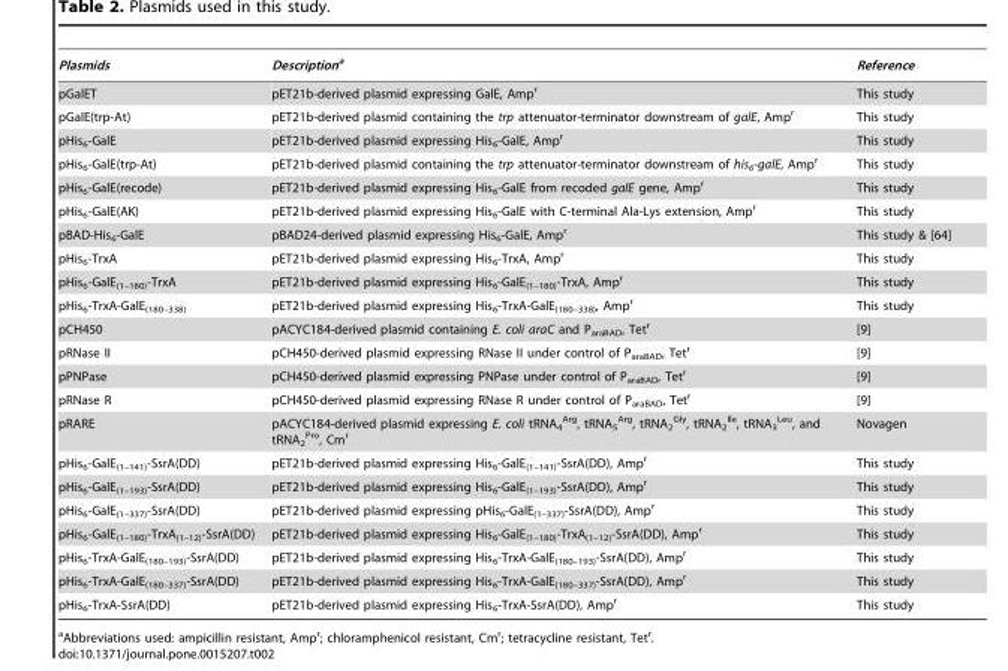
<table><thead><tr><td>Plasmids</td><td>Description<sup>a</sup></td><td>Reference</td></tr></thead><tbody><tr><td>pGalET</td><td>pET21b-derived plasmid expressing GalE, Amp<sup>r</sup></td><td>This study</td></tr><tr><td>pGalE(trp-At)</td><td>pET21b-derived plasmid containing the trp attenuator-terminator downstream of galE, Amp<sup>r</sup></td><td>This study</td></tr><tr><td>pHis<sub>6</sub>-GalE</td><td>pET21b-derived plasmid expressing His<sub>6</sub>-GalE, Amp<sup>r</sup></td><td>This study</td></tr><tr><td>pHis<sub>6</sub>-GalE(trp-At)</td><td>pET21b-derived plasmid containing the trp attenuator-terminator downstream of his<sub>6</sub>-galE, Amp<sup>r</sup></td><td>This study</td></tr><tr><td>pHis<sub>6</sub>-GalE(recode)</td><td>pET21b-derived plasmid expressing His<sub>6</sub>-GalE from recoded galE gene, Amp<sup>r</sup></td><td>This study</td></tr><tr><td>pHis<sub>6</sub>-GalE(AK)</td><td>pET21b-derived plasmid expressing His<sub>6</sub>-GalE with C-terminal Ala-Lys extension, Amp<sup>r</sup></td><td>This study</td></tr><tr><td>pBAD-His<sub>6</sub>-GalE</td><td>pBAD24-derived plasmid expressing His<sub>6</sub>-GalE, Amp<sup>r</sup></td><td>This study &amp; [64]</td></tr><tr><td>pHis<sub>6</sub>-TrxA</td><td>pET21b-derived plasmid expressing His<sub>6</sub>-TrxA, Amp<sup>r</sup></td><td>This study</td></tr><tr><td>pHis<sub>6</sub>-GalE<sub>(1–180)</sub>-TrxA</td><td>pET21b-derived plasmid expressing His<sub>6</sub>-GalE<sub>(1–180)</sub>-TrxA, Amp<sup>r</sup></td><td>This study</td></tr><tr><td>pHis<sub>6</sub>-TrxA-GalE<sub>(180–338)</sub></td><td>pET21b-derived plasmid expressing His<sub>6</sub>-TrxA-GalE<sub>(180–338)</sub>, Amp<sup>r</sup></td><td>This study</td></tr><tr><td>pCH450</td><td>pACYC184-derived plasmid containing E. coli araC and P<sub>araBAD</sub>, Tet<sup>r</sup></td><td>[9]</td></tr><tr><td>pRNase II</td><td>pCH450-derived plasmid expressing RNase II under control of P<sub>araBAD</sub>, Tet<sup>r</sup></td><td>[9]</td></tr><tr><td>pPNPase</td><td>pCH450-derived plasmid expressing PNPase under control of P<sub>araBAD</sub>, Tet<sup>r</sup></td><td>[9]</td></tr><tr><td>pRNase R</td><td>pCH450-derived plasmid expressing RNase R under control of P<sub>araBAD</sub>, Tet<sup>r</sup></td><td>[9]</td></tr><tr><td>pRARE</td><td>pACYC184-derived plasmid expressing E. coli tRNA<sub>4</sub> <sup>Arg</sup>, tRNA<sub>5</sub> <sup>Arg</sup>, tRNA<sub>2</sub> <sup>Gly</sup>, tRNA<sub>2</sub> <sup>Ile</sup>, tRNA<sub>3</sub> <sup>Leu</sup>, and tRNA<sub>2</sub> <sup>Pro</sup>, Cm<sup>r</sup></td><td>Novagen</td></tr><tr><td>pHis<sub>6</sub>-GalE<sub>(1–141)</sub>-SsrA(DD)</td><td>pET21b-derived plasmid expressing His<sub>6</sub>-GalE<sub>(1–141)</sub>-SsrA(DD), Amp<sup>r</sup></td><td>This study</td></tr><tr><td>pHis<sub>6</sub>-GalE<sub>(1–193)</sub>-SsrA(DD)</td><td>pET21b-derived plasmid expressing His<sub>6</sub>-GalE<sub>(1–193)</sub>-SsrA(DD), Amp<sup>r</sup></td><td>This study</td></tr><tr><td>pHis<sub>6</sub>-GalE<sub>(1–337)</sub>-SsrA(DD)</td><td>pET21b-derived plasmid expressing pHis<sub>6</sub>-GalE<sub>(1–337)</sub>-SsrA(DD), Amp<sup>r</sup></td><td>This study</td></tr><tr><td>pHis<sub>6</sub>-GalE<sub>(1–180)</sub>-TrxA<sub>(1–12)</sub>-SsrA(DD)</td><td>pET21b-derived plasmid expressing His<sub>6</sub>-GalE<sub>(1–180)</sub>-TrxA<sub>(1–12)</sub>-SsrA(DD), Amp<sup>r</sup></td><td>This study</td></tr><tr><td>pHis<sub>6</sub>-TrxA-GalE<sub>(180–193)</sub>-SsrA(DD)</td><td>pET21b-derived plasmid expressing His<sub>6</sub>-TrxA-GalE<sub>(180–193)</sub>-SsrA(DD), Amp<sup>r</sup></td><td>This study</td></tr><tr><td>pHis<sub>6</sub>-TrxA-GalE<sub>(180–337)</sub>-SsrA(DD)</td><td>pET21b-derived plasmid expressing His<sub>6</sub>-TrxA-GalE<sub>(180–337)</sub>-SsrA(DD), Amp<sup>r</sup></td><td>This study</td></tr><tr><td>pHis<sub>6</sub>-TrxA-SsrA(DD)</td><td>pET21b-derived plasmid expressing His<sub>6</sub>-TrxA-SsrA(DD), Amp<sup>r</sup></td><td>This study</td></tr></tbody></table>